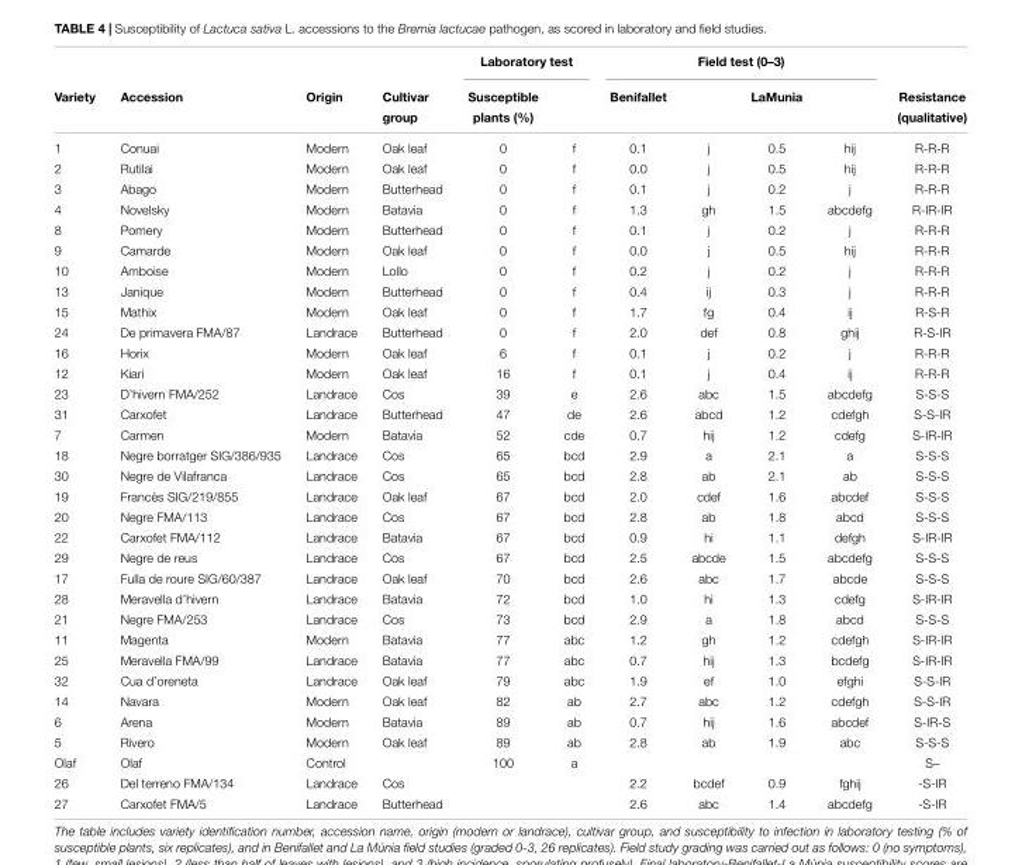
<table><thead><tr><td rowspan="2">Variety</td><td rowspan="2">Accession</td><td rowspan="2">Origin</td><td rowspan="2">Cultivar group</td><td colspan="2">Laboratory test</td><td colspan="4">Field test (0–3)</td><td rowspan="2">Resistance (qualitative)</td></tr><tr><td>Susceptible plants (%)</td><td></td><td>Benifallet</td><td></td><td>LaMunia</td><td></td></tr></thead><tbody><tr><td>1</td><td>Conuai</td><td>Modern</td><td>Oak leaf</td><td>0</td><td>f</td><td>0.1</td><td>j</td><td>0.5</td><td>hij</td><td>R-R-R</td></tr><tr><td>2</td><td>Rutilai</td><td>Modern</td><td>Oak leaf</td><td>0</td><td>f</td><td>0.0</td><td>j</td><td>0.5</td><td>hij</td><td>R-R-R</td></tr><tr><td>3</td><td>Abago</td><td>Modern</td><td>Butterhead</td><td>0</td><td>f</td><td>0.1</td><td>j</td><td>0.2</td><td>j</td><td>R-R-R</td></tr><tr><td>4</td><td>Novelsky</td><td>Modern</td><td>Batavia</td><td>0</td><td>f</td><td>1.3</td><td>gh</td><td>1.5</td><td>abcdefg</td><td>R-IR-IR</td></tr><tr><td>8</td><td>Pomery</td><td>Modern</td><td>Butterhead</td><td>0</td><td>f</td><td>0.1</td><td>j</td><td>0.2</td><td>j</td><td>R-R-R</td></tr><tr><td>9</td><td>Camarde</td><td>Modern</td><td>Oak leaf</td><td>0</td><td>f</td><td>0.0</td><td>j</td><td>0.5</td><td>hij</td><td>R-R-R</td></tr><tr><td>10</td><td>Amboise</td><td>Modern</td><td>Lollo</td><td>0</td><td>f</td><td>0.2</td><td>j</td><td>0.2</td><td>j</td><td>R-R-R</td></tr><tr><td>13</td><td>Janique</td><td>Modern</td><td>Butterhead</td><td>0</td><td>f</td><td>0.4</td><td>ij</td><td>0.3</td><td>j</td><td>R-R-R</td></tr><tr><td>15</td><td>Mathix</td><td>Modern</td><td>Oak leaf</td><td>0</td><td>f</td><td>1.7</td><td>fg</td><td>0.4</td><td>ij</td><td>R-S-R</td></tr><tr><td>24</td><td>De primavera FMA/87</td><td>Landrace</td><td>Butterhead</td><td>0</td><td>f</td><td>2.0</td><td>def</td><td>0.8</td><td>ghij</td><td>R-S-IR</td></tr><tr><td>16</td><td>Horix</td><td>Modern</td><td>Oak leaf</td><td>6</td><td>f</td><td>0.1</td><td>j</td><td>0.2</td><td>j</td><td>R-R-R</td></tr><tr><td>12</td><td>Kiari</td><td>Modern</td><td>Oak leaf</td><td>16</td><td>f</td><td>0.1</td><td>j</td><td>0.4</td><td>ij</td><td>R-R-R</td></tr><tr><td>23</td><td>D’hivern FMA/252</td><td>Landrace</td><td>Cos</td><td>39</td><td>e</td><td>2.6</td><td>abc</td><td>1.5</td><td>abcdefg</td><td>S-S-S</td></tr><tr><td>31</td><td>Carxofet</td><td>Landrace</td><td>Butterhead</td><td>47</td><td>de</td><td>2.6</td><td>abcd</td><td>1.2</td><td>cdefgh</td><td>S-S-IR</td></tr><tr><td>7</td><td>Carmen</td><td>Modern</td><td>Batavia</td><td>52</td><td>cde</td><td>0.7</td><td>hij</td><td>1.2</td><td>cdefg</td><td>S-IR-IR</td></tr><tr><td>18</td><td>Negre borratger SIG/386/935</td><td>Landrace</td><td>Cos</td><td>65</td><td>bcd</td><td>2.9</td><td>a</td><td>2.1</td><td>a</td><td>S-S-S</td></tr><tr><td>30</td><td>Negre de Vilafranca</td><td>Landrace</td><td>Cos</td><td>65</td><td>bcd</td><td>2.8</td><td>ab</td><td>2.1</td><td>ab</td><td>S-S-S</td></tr><tr><td>19</td><td>Francès SIG/219/855</td><td>Landrace</td><td>Oak leaf</td><td>67</td><td>bcd</td><td>2.0</td><td>cdef</td><td>1.6</td><td>abcdef</td><td>S-S-S</td></tr><tr><td>20</td><td>Negre FMA/113</td><td>Landrace</td><td>Cos</td><td>67</td><td>bcd</td><td>2.8</td><td>ab</td><td>1.8</td><td>abcd</td><td>S-S-S</td></tr><tr><td>22</td><td>Carxofet FMA/112</td><td>Landrace</td><td>Batavia</td><td>67</td><td>bcd</td><td>0.9</td><td>hi</td><td>1.1</td><td>defgh</td><td>S-IR-IR</td></tr><tr><td>29</td><td>Negre de reus</td><td>Landrace</td><td>Cos</td><td>67</td><td>bcd</td><td>2.5</td><td>abcde</td><td>1.5</td><td>abcdefg</td><td>S-S-S</td></tr><tr><td>17</td><td>Fulla de roure SIG/60/387</td><td>Landrace</td><td>Oak leaf</td><td>70</td><td>bcd</td><td>2.6</td><td>abc</td><td>1.7</td><td>abcde</td><td>S-S-S</td></tr><tr><td>28</td><td>Meravella d’hivern</td><td>Landrace</td><td>Batavia</td><td>72</td><td>bcd</td><td>1.0</td><td>hi</td><td>1.3</td><td>cdefg</td><td>S-IR-IR</td></tr><tr><td>21</td><td>Negre FMA/253</td><td>Landrace</td><td>Cos</td><td>73</td><td>bcd</td><td>2.9</td><td>a</td><td>1.8</td><td>abcd</td><td>S-S-S</td></tr><tr><td>11</td><td>Magenta</td><td>Modern</td><td>Batavia</td><td>77</td><td>abc</td><td>1.2</td><td>gh</td><td>1.2</td><td>cdefgh</td><td>S-IR-IR</td></tr><tr><td>25</td><td>Meravella FMA/99</td><td>Landrace</td><td>Batavia</td><td>77</td><td>abc</td><td>0.7</td><td>hij</td><td>1.3</td><td>bcdefg</td><td>S-IR-IR</td></tr><tr><td>32</td><td>Cua d’oreneta</td><td>Landrace</td><td>Oak leaf</td><td>79</td><td>abc</td><td>1.9</td><td>ef</td><td>1.0</td><td>efghi</td><td>S-S-IR</td></tr><tr><td>14</td><td>Navara</td><td>Modern</td><td>Oak leaf</td><td>82</td><td>ab</td><td>2.7</td><td>abc</td><td>1.2</td><td>cdefgh</td><td>S-S-IR</td></tr><tr><td>6</td><td>Arena</td><td>Modern</td><td>Batavia</td><td>89</td><td>ab</td><td>0.7</td><td>hij</td><td>1.6</td><td>abcdef</td><td>S-IR-S</td></tr><tr><td>5</td><td>Rivero</td><td>Modern</td><td>Oak leaf</td><td>89</td><td>ab</td><td>2.8</td><td>ab</td><td>1.9</td><td>abc</td><td>S-S-S</td></tr><tr><td>Olaf</td><td>Olaf</td><td>Control</td><td></td><td>100</td><td>a</td><td></td><td></td><td></td><td></td><td>S–</td></tr><tr><td>26</td><td>Del terreno FMA/134</td><td>Landrace</td><td>Cos</td><td></td><td></td><td>2.2</td><td>bcdef</td><td>0.9</td><td>fghij</td><td>-S-IR</td></tr><tr><td>27</td><td>Carxofet FMA/5</td><td>Landrace</td><td>Butterhead</td><td></td><td></td><td>2.6</td><td>abc</td><td>1.4</td><td>abcdefg</td><td>-S-IR</td></tr></tbody></table>